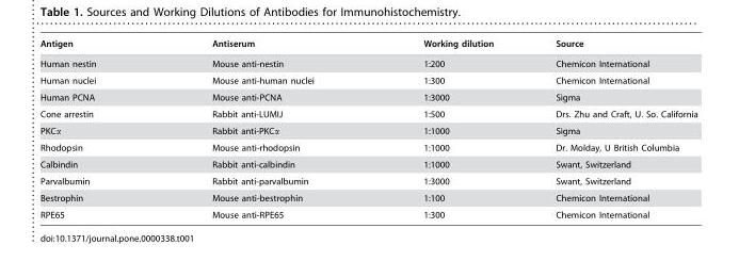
<table><thead><tr><td>Antigen</td><td>Antiserum</td><td>Working dilution</td><td>Source</td></tr></thead><tbody><tr><td>Human nestin</td><td>Mouse anti-nestin</td><td>1:200</td><td>Chemicon International</td></tr><tr><td>Human nuclei</td><td>Mouse anti-human nuclei</td><td>1:300</td><td>Chemicon International</td></tr><tr><td>Human PCNA</td><td>Mouse anti-PCNA</td><td>1:3000</td><td>Sigma</td></tr><tr><td>Cone arrestin</td><td>Rabbit anti-LUMIJ</td><td>1:500</td><td>Drs. Zhu and Craft, U. So. California</td></tr><tr><td>PKCα</td><td>Rabbit anti-PKCα</td><td>1:1000</td><td>Sigma</td></tr><tr><td>Rhodopsin</td><td>Mouse anti-rhodopsin</td><td>1:1000</td><td>Dr. Molday, U British Columbia</td></tr><tr><td>Calbindin</td><td>Rabbit anti-calbindin</td><td>1:1000</td><td>Swant, Switzerland</td></tr><tr><td>Parvalbumin</td><td>Rabbit anti-parvalbumin</td><td>1:3000</td><td>Swant, Switzerland</td></tr><tr><td>Bestrophin</td><td>Mouse anti-bestrophin</td><td>1:100</td><td>Chemicon International</td></tr><tr><td>RPE65</td><td>Mouse anti-RPE65</td><td>1:300</td><td>Chemicon International</td></tr></tbody></table>